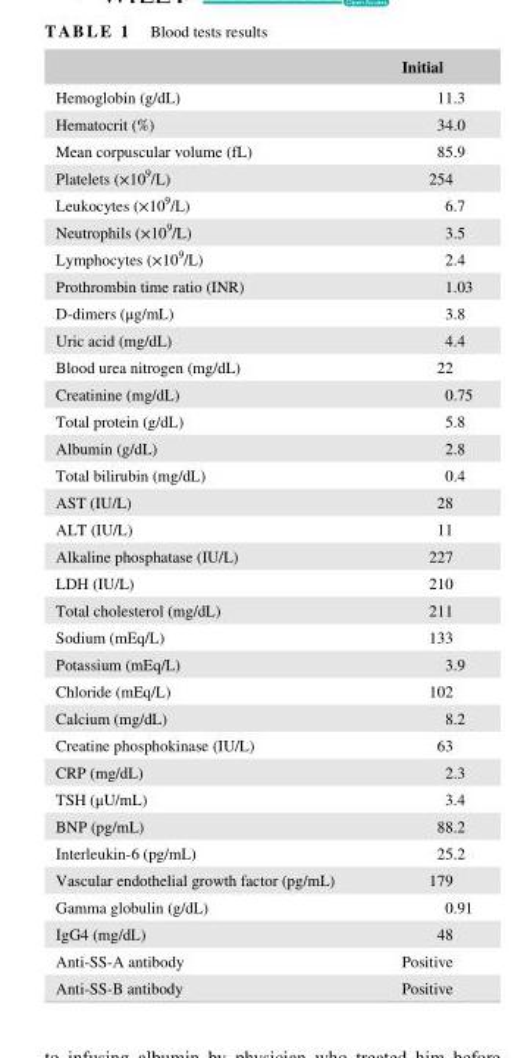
<table><thead><tr><td></td><td>Initial</td></tr></thead><tbody><tr><td>Hemoglobin (g/dL)</td><td>11.3</td></tr><tr><td>Hematocrit (%)</td><td>34.0</td></tr><tr><td>Mean corpuscular volume (fL)</td><td>85.9</td></tr><tr><td>Platelets (×10<sup>9</sup>/L)</td><td>254</td></tr><tr><td>Leukocytes (×10<sup>9</sup>/L)</td><td>6.7</td></tr><tr><td>Neutrophils (×10<sup>9</sup>/L)</td><td>3.5</td></tr><tr><td>Lymphocytes (×10<sup>9</sup>/L)</td><td>2.4</td></tr><tr><td>Prothrombin time ratio (INR)</td><td>1.03</td></tr><tr><td>D- dimers (μg/mL)</td><td>3.8</td></tr><tr><td>Uric acid (mg/dL)</td><td>4.4</td></tr><tr><td>Blood urea nitrogen (mg/dL)</td><td>22</td></tr><tr><td>Creatinine (mg/dL)</td><td>0.75</td></tr><tr><td>Total protein (g/dL)</td><td>5.8</td></tr><tr><td>Albumin (g/dL)</td><td>2.8</td></tr><tr><td>Total bilirubin (mg/dL)</td><td>0.4</td></tr><tr><td>AST (IU/L)</td><td>28</td></tr><tr><td>ALT (IU/L)</td><td>11</td></tr><tr><td>Alkaline phosphatase (IU/L)</td><td>227</td></tr><tr><td>LDH (IU/L)</td><td>210</td></tr><tr><td>Total cholesterol (mg/dL)</td><td>211</td></tr><tr><td>Sodium (mEq/L)</td><td>133</td></tr><tr><td>Potassium (mEq/L)</td><td>3.9</td></tr><tr><td>Chloride (mEq/L)</td><td>102</td></tr><tr><td>Calcium (mg/dL)</td><td>8.2</td></tr><tr><td>Creatine phosphokinase (IU/L)</td><td>63</td></tr><tr><td>CRP (mg/dL)</td><td>2.3</td></tr><tr><td>TSH (μU/mL)</td><td>3.4</td></tr><tr><td>BNP (pg/mL)</td><td>88.2</td></tr><tr><td>Interleukin- 6 (pg/mL)</td><td>25.2</td></tr><tr><td>Vascular endothelial growth factor (pg/mL)</td><td>179</td></tr><tr><td>Gamma globulin (g/dL)</td><td>0.91</td></tr><tr><td>IgG4 (mg/dL)</td><td>48</td></tr><tr><td>Anti- SS- A antibody</td><td>Positive</td></tr><tr><td>Anti- SS- B antibody</td><td>Positive</td></tr></tbody></table>